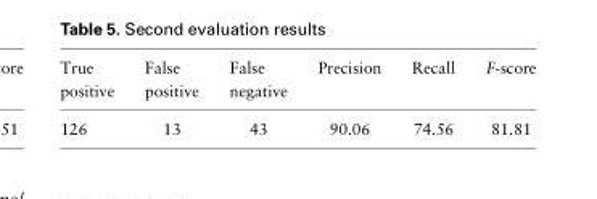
<table><thead><tr><td>True positive</td><td>False positive</td><td>False negative</td><td>Precision</td><td>Recall</td><td>F-score</td></tr></thead><tbody><tr><td>126</td><td>13</td><td>43</td><td>90.06</td><td>74.56</td><td>81.81</td></tr></tbody></table>